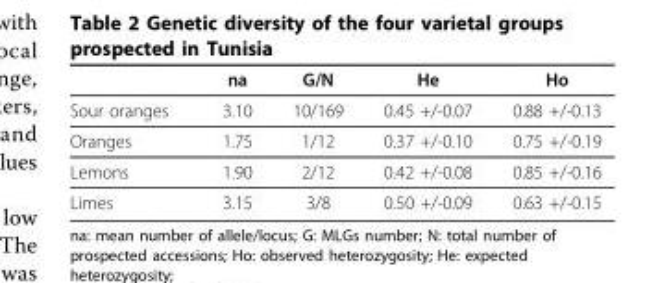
<table><thead><tr><td></td><td>na</td><td>G/N</td><td>He</td><td>Ho</td></tr></thead><tbody><tr><td>Sour oranges</td><td>3.10</td><td>10/169</td><td>0.45 +/-0.07</td><td>0.88 +/-0.13</td></tr><tr><td>Oranges</td><td>1.75</td><td>1/12</td><td>0.37 +/-0.10</td><td>0.75 +/-0.19</td></tr><tr><td>Lemons</td><td>1.90</td><td>2/12</td><td>0.42 +/-0.08</td><td>0.85 +/-0.16</td></tr><tr><td>Limes</td><td>3.15</td><td>3/8</td><td>0.50 +/-0.09</td><td>0.63 +/-0.15</td></tr></tbody></table>